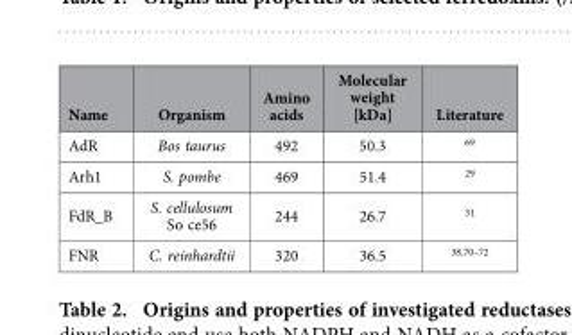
<table><thead><tr><td>Name</td><td>Organism</td><td>Amino acids</td><td>Molecular weight [kDa]</td><td>Literature</td></tr></thead><tbody><tr><td>AdR</td><td>Bos taurus</td><td>492</td><td>50.3</td><td>69</td></tr><tr><td>Arh1</td><td>S. pombe</td><td>469</td><td>51.4</td><td>29</td></tr><tr><td>FdR_B</td><td>S. cellulosum So ce56</td><td>244</td><td>26.7</td><td>31</td></tr><tr><td>FNR</td><td>C. reinhardtii</td><td>320</td><td>36.5</td><td>38,70–72</td></tr></tbody></table>